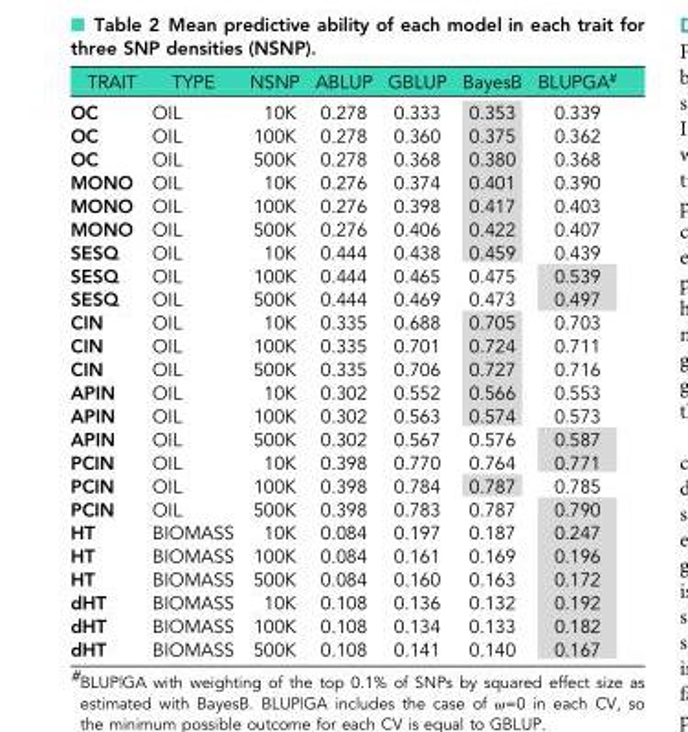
<table><thead><tr><td>TRAIT</td><td>TYPE</td><td>NSNP</td><td>ABLUP</td><td>GBLUP</td><td>BayesB</td><td>BLUPGA<sup>#</sup></td></tr></thead><tbody><tr><td>OC</td><td>OIL</td><td>10K</td><td>0.278</td><td>0.333</td><td>0.353</td><td>0.339</td></tr><tr><td>OC</td><td>OIL</td><td>100K</td><td>0.278</td><td>0.360</td><td>0.375</td><td>0.362</td></tr><tr><td>OC</td><td>OIL</td><td>500K</td><td>0.278</td><td>0.368</td><td>0.380</td><td>0.368</td></tr><tr><td>MONO</td><td>OIL</td><td>10K</td><td>0.276</td><td>0.374</td><td>0.401</td><td>0.390</td></tr><tr><td>MONO</td><td>OIL</td><td>100K</td><td>0.276</td><td>0.398</td><td>0.417</td><td>0.403</td></tr><tr><td>MONO</td><td>OIL</td><td>500K</td><td>0.276</td><td>0.406</td><td>0.422</td><td>0.407</td></tr><tr><td>SESQ</td><td>OIL</td><td>10K</td><td>0.444</td><td>0.438</td><td>0.459</td><td>0.439</td></tr><tr><td>SESQ</td><td>OIL</td><td>100K</td><td>0.444</td><td>0.465</td><td>0.475</td><td>0.539</td></tr><tr><td>SESQ</td><td>OIL</td><td>500K</td><td>0.444</td><td>0.469</td><td>0.473</td><td>0.497</td></tr><tr><td>CIN</td><td>OIL</td><td>10K</td><td>0.335</td><td>0.688</td><td>0.705</td><td>0.703</td></tr><tr><td>CIN</td><td>OIL</td><td>100K</td><td>0.335</td><td>0.701</td><td>0.724</td><td>0.711</td></tr><tr><td>CIN</td><td>OIL</td><td>500K</td><td>0.335</td><td>0.706</td><td>0.727</td><td>0.716</td></tr><tr><td>APIN</td><td>OIL</td><td>10K</td><td>0.302</td><td>0.552</td><td>0.566</td><td>0.553</td></tr><tr><td>APIN</td><td>OIL</td><td>100K</td><td>0.302</td><td>0.563</td><td>0.574</td><td>0.573</td></tr><tr><td>APIN</td><td>OIL</td><td>500K</td><td>0.302</td><td>0.567</td><td>0.576</td><td>0.587</td></tr><tr><td>PCIN</td><td>OIL</td><td>10K</td><td>0.398</td><td>0.770</td><td>0.764</td><td>0.771</td></tr><tr><td>PCIN</td><td>OIL</td><td>100K</td><td>0.398</td><td>0.784</td><td>0.787</td><td>0.785</td></tr><tr><td>PCIN</td><td>OIL</td><td>500K</td><td>0.398</td><td>0.783</td><td>0.787</td><td>0.790</td></tr><tr><td>HT</td><td>BIOMASS</td><td>10K</td><td>0.084</td><td>0.197</td><td>0.187</td><td>0.247</td></tr><tr><td>HT</td><td>BIOMASS</td><td>100K</td><td>0.084</td><td>0.161</td><td>0.169</td><td>0.196</td></tr><tr><td>HT</td><td>BIOMASS</td><td>500K</td><td>0.084</td><td>0.160</td><td>0.163</td><td>0.172</td></tr><tr><td>dHT</td><td>BIOMASS</td><td>10K</td><td>0.108</td><td>0.136</td><td>0.132</td><td>0.192</td></tr><tr><td>dHT</td><td>BIOMASS</td><td>100K</td><td>0.108</td><td>0.134</td><td>0.133</td><td>0.182</td></tr><tr><td>dHT</td><td>BIOMASS</td><td>500K</td><td>0.108</td><td>0.141</td><td>0.140</td><td>0.167</td></tr></tbody></table>